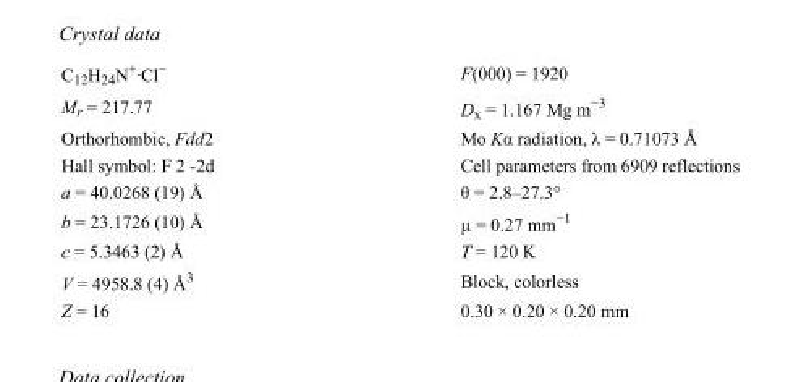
<table><tbody><tr><td>C<sub>12</sub>H<sub>24</sub>N<sup>+</sup>·Cl<sup>−</sup></td><td>F(000) = 1920</td></tr><tr><td>M<sub>r</sub> = 217.77</td><td>D<sub>x</sub> = 1.167 Mg m<sup>−3</sup></td></tr><tr><td>Orthorhombic, Fdd2</td><td>Mo Kα radiation, λ = 0.71073 Å</td></tr><tr><td>Hall symbol: F 2 -2d</td><td>Cell parameters from 6909 reflections</td></tr><tr><td>a = 40.0268 (19) Å</td><td>θ = 2.8–27.3°</td></tr><tr><td>b = 23.1726 (10) Å</td><td>µ = 0.27 mm<sup>−1</sup></td></tr><tr><td>c = 5.3463 (2) Å</td><td>T = 120 K</td></tr><tr><td>V = 4958.8 (4) Å<sup>3</sup></td><td>Block, colorless</td></tr><tr><td>Z = 16</td><td>0.30 × 0.20 × 0.20 mm</td></tr></tbody></table>